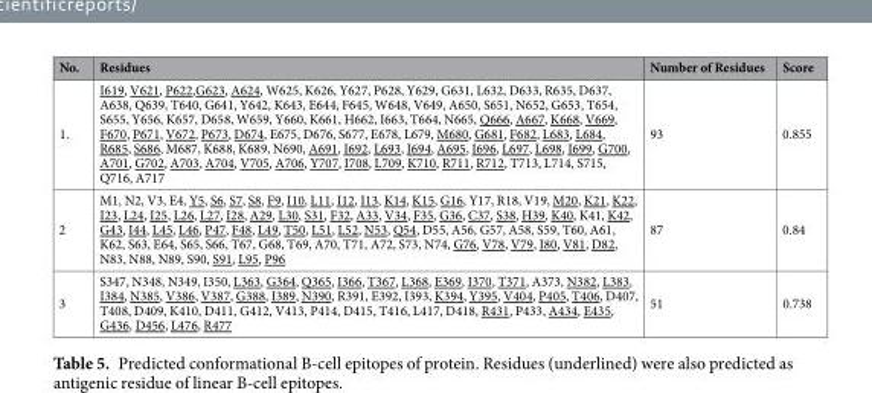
<table><thead><tr><td>No.</td><td>Residues</td><td>Number of Residues</td><td>Score</td></tr></thead><tbody><tr><td>1.</td><td>I619, V621, P622,G623, A624, W625, K626, Y627, P628, Y629, G631, L632, D633, R635, D637, A638, Q639, T640, G641, Y642, K643, E644, F645, W648, V649, A650, S651, N652, G653, T654, S655, Y656, K657, D658, W659, Y660, K661, H662, I663, T664, N665, Q666, A667, K668, V669, F670, P671, V672, P673, D674, E675, D676, S677, E678, L679, M680, G681, F682, L683, L684, R685, S686, M687, K688, K689, N690, A691, I692, L693, I694, A695, I696, L697, L698, I699, G700, A701, G702, A703, A704, V705, A706, Y707, I708, L709, K710, R711, R712, T713, L714, S715, Q716, A717</td><td>93</td><td>0.855</td></tr><tr><td>2</td><td>M1, N2, V3, E4, Y5, S6, S7, S8, F9, I10, L11, I12, I13, K14, K15, G16, Y17, R18, V19, M20, K21, K22, I23, L24, I25, L26, L27, I28, A29, L30, S31, F32, A33, V34, F35, G36, C37, S38, H39, K40, K41, K42, G43, I44, L45, L46, P47, F48, L49, T50, L51, L52, N53, Q54, D55, A56, G57, A58, S59, T60, A61, K62, S63, E64, S65, S66, T67, G68, T69, A70, T71, A72, S73, N74, G76, V78, V79, I80, V81, D82, N83, N88, N89, S90, S91, L95, P96</td><td>87</td><td>0.84</td></tr><tr><td>3</td><td>S347, N348, N349, I350, L363, G364, Q365, I366, T367, L368, E369, I370, T371, A373, N382, L383, I384, N385, V386, V387, G388, I389, N390, R391, E392, I393, K394, Y395, V404, P405, T406, D407, T408, D409, K410, D411, G412, V413, P414, D415, T416, L417, D418, R431, P433, A434, E435, G436, D456, L476, R477</td><td>51</td><td>0.738</td></tr></tbody></table>